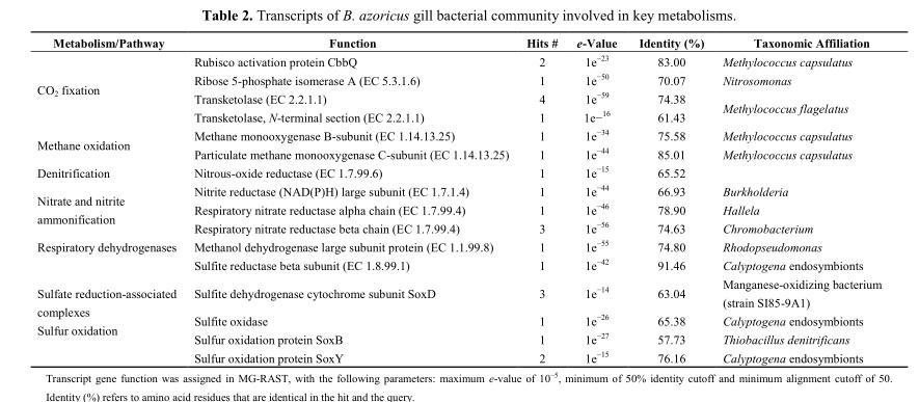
<table><thead><tr><td>Metabolism/Pathway</td><td>Function</td><td>Hits #</td><td>e-Value</td><td>Identity (%)</td><td>Taxonomic Affiliation</td></tr></thead><tbody><tr><td rowspan="4">CO<sub>2</sub> fixation</td><td>Rubisco activation protein CbbQ</td><td>2</td><td>1e<sup>−23</sup></td><td>83.00</td><td>Methylococcus capsulatus</td></tr><tr><td>Ribose 5-phosphate isomerase A (EC 5.3.1.6)</td><td>1</td><td>1e<sup>−50</sup></td><td>70.07</td><td>Nitrosomonas</td></tr><tr><td>Transketolase (EC 2.2.1.1)</td><td>4</td><td>1e<sup>−59</sup></td><td>74.38</td><td rowspan="2">Methylococcus flagelatus</td></tr><tr><td>Transketolase, N-terminal section (EC 2.2.1.1)</td><td>1</td><td>1e−<sup>16</sup></td><td>61.43</td></tr><tr><td rowspan="2">Methane oxidation</td><td>Methane monooxygenase B-subunit (EC 1.14.13.25)</td><td>1</td><td>1e<sup>−34</sup></td><td>75.58</td><td>Methylococcus capsulatus</td></tr><tr><td>Particulate methane monooxygenase C-subunit (EC 1.14.13.25)</td><td>1</td><td>1e<sup>−44</sup></td><td>85.01</td><td>Methylococcus capsulatus</td></tr><tr><td>Denitrification</td><td>Nitrous-oxide reductase (EC 1.7.99.6)</td><td>1</td><td>1e<sup>−15</sup></td><td>65.52</td><td></td></tr><tr><td rowspan="3">Nitrate and nitrite ammonification</td><td>Nitrite reductase (NAD(P)H) large subunit (EC 1.7.1.4)</td><td>1</td><td>1e<sup>−44</sup></td><td>66.93</td><td>Burkholderia</td></tr><tr><td>Respiratory nitrate reductase alpha chain (EC 1.7.99.4)</td><td>1</td><td>1e<sup>−46</sup></td><td>78.90</td><td>Hallela</td></tr><tr><td>Respiratory nitrate reductase beta chain (EC 1.7.99.4)</td><td>3</td><td>1e<sup>−56</sup></td><td>74.63</td><td>Chromobacterium</td></tr><tr><td>Respiratory dehydrogenases</td><td>Methanol dehydrogenase large subunit protein (EC 1.1.99.8)</td><td>1</td><td>1e<sup>−55</sup></td><td>74.80</td><td>Rhodopseudomonas</td></tr><tr><td rowspan="5">Sulfate reduction-associated complexes Sulfur oxidation</td><td>Sulfite reductase beta subunit (EC 1.8.99.1)</td><td>1</td><td>1e<sup>−42</sup></td><td>91.46</td><td>Calyptogena endosymbionts</td></tr><tr><td>Sulfite dehydrogenase cytochrome subunit SoxD</td><td>3</td><td>1e<sup>−14</sup></td><td>63.04</td><td>Manganese-oxidizing bacterium (strain SI85-9A1)</td></tr><tr><td>Sulfite oxidase</td><td>1</td><td>1e<sup>−26</sup></td><td>65.38</td><td>Calyptogena endosymbionts</td></tr><tr><td>Sulfur oxidation protein SoxB</td><td>1</td><td>1e<sup>−27</sup></td><td>57.73</td><td>Thiobacillus denitrificans</td></tr><tr><td>Sulfur oxidation protein SoxY</td><td>2</td><td>1e<sup>−15</sup></td><td>76.16</td><td>Calyptogena endosymbionts</td></tr></tbody></table>